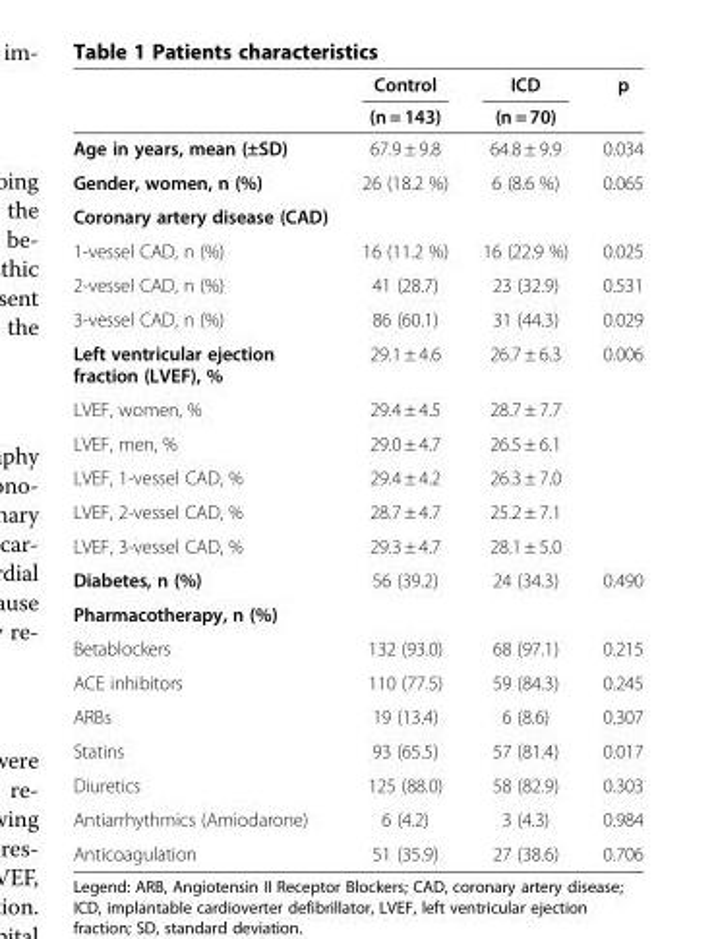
<table><thead><tr><td rowspan="2"></td><td rowspan="2">Control (n = 143)</td><td rowspan="2">ICD (n = 70)</td><td rowspan="2">p</td></tr><tr></tr></thead><tbody><tr><td>Age in years, mean (±SD)</td><td>67.9 ± 9.8</td><td>64.8 ± 9.9</td><td>0.034</td></tr><tr><td>Gender, women, n (%)</td><td>26 (18.2 %)</td><td>6 (8.6 %)</td><td>0.065</td></tr><tr><td colspan="4">Coronary artery disease (CAD)</td></tr><tr><td>1-vessel CAD, n (%)</td><td>16 (11.2 %)</td><td>16 (22.9 %)</td><td>0.025</td></tr><tr><td>2-vessel CAD, n (%)</td><td>41 (28.7)</td><td>23 (32.9)</td><td>0.531</td></tr><tr><td>3-vessel CAD, n (%)</td><td>86 (60.1)</td><td>31 (44.3)</td><td>0.029</td></tr><tr><td>Left ventricular ejection fraction (LVEF), %</td><td>29.1 ± 4.6</td><td>26.7 ± 6.3</td><td>0.006</td></tr><tr><td>LVEF, women, %</td><td>29.4 ± 4.5</td><td>28.7 ± 7.7</td><td></td></tr><tr><td>LVEF, men, %</td><td>29.0 ± 4.7</td><td>26.5 ± 6.1</td><td></td></tr><tr><td>LVEF, 1-vessel CAD, %</td><td>29.4 ± 4.2</td><td>26.3 ± 7.0</td><td></td></tr><tr><td>LVEF, 2-vessel CAD, %</td><td>28.7 ± 4.7</td><td>25.2 ± 7.1</td><td></td></tr><tr><td>LVEF, 3-vessel CAD, %</td><td>29.3 ± 4.7</td><td>28.1 ± 5.0</td><td></td></tr><tr><td>Diabetes, n (%)</td><td>56 (39.2)</td><td>24 (34.3)</td><td>0.490</td></tr><tr><td colspan="4">Pharmacotherapy, n (%)</td></tr><tr><td>Betablockers</td><td>132 (93.0)</td><td>68 (97.1)</td><td>0.215</td></tr><tr><td>ACE inhibitors</td><td>110 (77.5)</td><td>59 (84.3)</td><td>0.245</td></tr><tr><td>ARBs</td><td>19 (13.4)</td><td>6 (8.6)</td><td>0.307</td></tr><tr><td>Statins</td><td>93 (65.5)</td><td>57 (81.4)</td><td>0.017</td></tr><tr><td>Diuretics</td><td>125 (88.0)</td><td>58 (82.9)</td><td>0.303</td></tr><tr><td>Antiarrhythmics (Amiodarone)</td><td>6 (4.2)</td><td>3 (4.3)</td><td>0.984</td></tr><tr><td>Anticoagulation</td><td>51 (35.9)</td><td>27 (38.6)</td><td>0.706</td></tr></tbody></table>